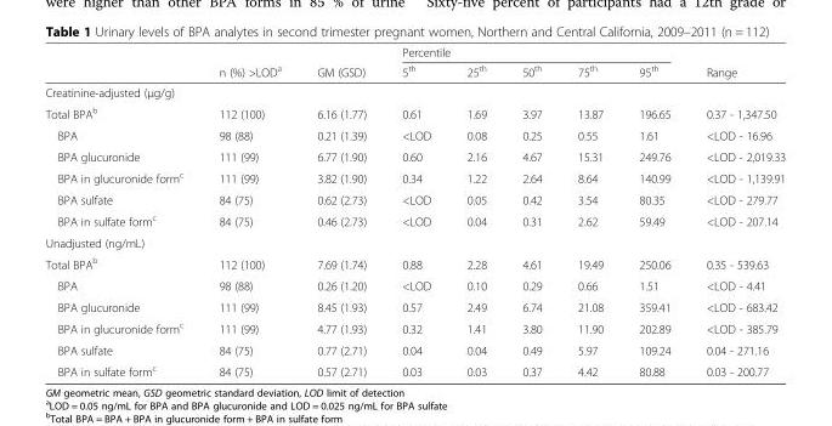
<table><thead><tr><td rowspan="2"></td><td rowspan="2">n (%) &gt;LOD<sup>a</sup></td><td rowspan="2">GM (GSD)</td><td colspan="5">Percentile</td><td rowspan="2">Range</td></tr><tr><td>5<sup>th</sup></td><td>25<sup>th</sup></td><td>50<sup>th</sup></td><td>75<sup>th</sup></td><td>95<sup>th</sup></td></tr></thead><tbody><tr><td colspan="9">Creatinine-adjusted (μg/g)</td></tr><tr><td>Total BPA<sup>b</sup></td><td>112 (100)</td><td>6.16 (1.77)</td><td>0.61</td><td>1.69</td><td>3.97</td><td>13.87</td><td>196.65</td><td>0.37 - 1,347.50</td></tr><tr><td>BPA</td><td>98 (88)</td><td>0.21 (1.39)</td><td>&lt;LOD</td><td>0.08</td><td>0.25</td><td>0.55</td><td>1.61</td><td>&lt;LOD - 16.96</td></tr><tr><td>BPA glucuronide</td><td>111 (99)</td><td>6.77 (1.90)</td><td>0.60</td><td>2.16</td><td>4.67</td><td>15.31</td><td>249.76</td><td>&lt;LOD - 2,019.33</td></tr><tr><td>BPA in glucuronide form<sup>c</sup></td><td>111 (99)</td><td>3.82 (1.90)</td><td>0.34</td><td>1.22</td><td>2.64</td><td>8.64</td><td>140.99</td><td>&lt;LOD - 1,139.91</td></tr><tr><td>BPA sulfate</td><td>84 (75)</td><td>0.62 (2.73)</td><td>&lt;LOD</td><td>0.05</td><td>0.42</td><td>3.54</td><td>80.35</td><td>&lt;LOD - 279.77</td></tr><tr><td>BPA in sulfate form<sup>c</sup></td><td>84 (75)</td><td>0.46 (2.73)</td><td>&lt;LOD</td><td>0.04</td><td>0.31</td><td>2.62</td><td>59.49</td><td>&lt;LOD - 207.14</td></tr><tr><td colspan="9">Unadjusted (ng/mL)</td></tr><tr><td>Total BPA<sup>b</sup></td><td>112 (100)</td><td>7.69 (1.74)</td><td>0.88</td><td>2.28</td><td>4.61</td><td>19.49</td><td>250.06</td><td>0.35 - 539.63</td></tr><tr><td>BPA</td><td>98 (88)</td><td>0.26 (1.20)</td><td>&lt;LOD</td><td>0.10</td><td>0.29</td><td>0.66</td><td>1.51</td><td>&lt;LOD - 4.41</td></tr><tr><td>BPA glucuronide</td><td>111 (99)</td><td>8.45 (1.93)</td><td>0.57</td><td>2.49</td><td>6.74</td><td>21.08</td><td>359.41</td><td>&lt;LOD - 683.42</td></tr><tr><td>BPA in glucuronide form<sup>c</sup></td><td>111 (99)</td><td>4.77 (1.93)</td><td>0.32</td><td>1.41</td><td>3.80</td><td>11.90</td><td>202.89</td><td>&lt;LOD - 385.79</td></tr><tr><td>BPA sulfate</td><td>84 (75)</td><td>0.77 (2.71)</td><td>0.04</td><td>0.04</td><td>0.49</td><td>5.97</td><td>109.24</td><td>0.04 - 271.16</td></tr><tr><td>BPA in sulfate form<sup>c</sup></td><td>84 (75)</td><td>0.57 (2.71)</td><td>0.03</td><td>0.03</td><td>0.37</td><td>4.42</td><td>80.88</td><td>0.03 - 200.77</td></tr></tbody></table>